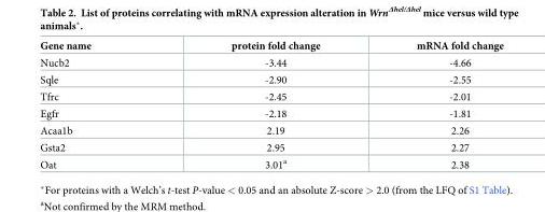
<table><thead><tr><td>Gene name</td><td>protein fold change</td><td>mRNA fold change</td></tr></thead><tbody><tr><td>Nucb2</td><td>-3.44</td><td>-4.66</td></tr><tr><td>Sqle</td><td>-2.90</td><td>-2.55</td></tr><tr><td>Tfrc</td><td>-2.45</td><td>-2.01</td></tr><tr><td>Egfr</td><td>-2.18</td><td>-1.81</td></tr><tr><td>Acaa1b</td><td>2.19</td><td>2.26</td></tr><tr><td>Gsta2</td><td>2.95</td><td>2.27</td></tr><tr><td>Oat</td><td>3.01<sup>a</sup></td><td>2.38</td></tr></tbody></table>